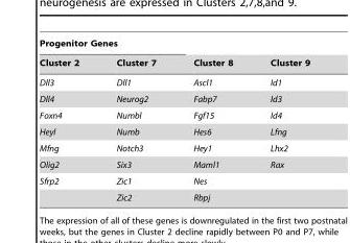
<table><thead><tr><td colspan="2">Progenitor Genes</td><td rowspan="2">Cluster 8</td><td rowspan="2">Cluster 9</td></tr><tr><td>Cluster 2</td><td>Cluster 7</td></tr></thead><tbody><tr><td>Dll3</td><td>Dll1</td><td>Ascl1</td><td>Id1</td></tr><tr><td>Dll4</td><td>Neurog2</td><td>Fabp7</td><td>Id3</td></tr><tr><td>Foxn4</td><td>Numbl</td><td>Fgf15</td><td>Id4</td></tr><tr><td>Heyl</td><td>Numb</td><td>Hes6</td><td>Lfng</td></tr><tr><td>Mfng</td><td>Notch3</td><td>Hey1</td><td>Lhx2</td></tr><tr><td>Olig2</td><td>Six3</td><td>Maml1</td><td>Rax</td></tr><tr><td rowspan="2">Sfrp2</td><td>Zic1</td><td>Nes</td><td></td></tr><tr><td>Zic2</td><td>Rbpj</td><td></td></tr></tbody></table>